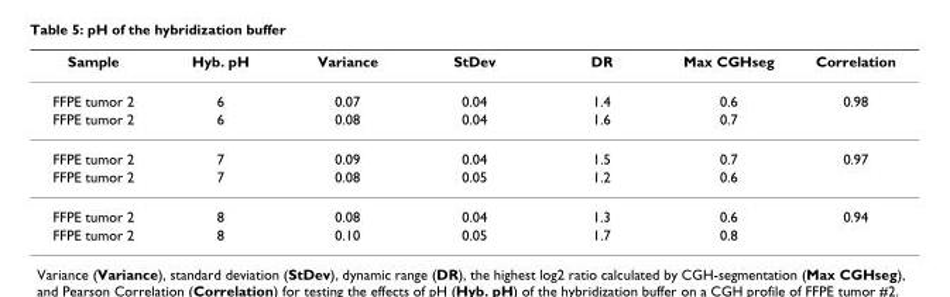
<table><thead><tr><td>Sample</td><td>Hyb. pH</td><td>Variance</td><td>StDev</td><td>DR</td><td>Max CGHseg</td><td>Correlation</td></tr></thead><tbody><tr><td>FFPE tumor 2</td><td>6</td><td>0.07</td><td>0.04</td><td>1.4</td><td>0.6</td><td>0.98</td></tr><tr><td>FFPE tumor 2</td><td>6</td><td>0.08</td><td>0.04</td><td>1.6</td><td>0.7</td><td></td></tr><tr><td>FFPE tumor 2</td><td>7</td><td>0.09</td><td>0.04</td><td>1.5</td><td>0.7</td><td>0.97</td></tr><tr><td>FFPE tumor 2</td><td>7</td><td>0.08</td><td>0.05</td><td>1.2</td><td>0.6</td><td></td></tr><tr><td>FFPE tumor 2</td><td>8</td><td>0.08</td><td>0.04</td><td>1.3</td><td>0.6</td><td>0.94</td></tr><tr><td>FFPE tumor 2</td><td>8</td><td>0.10</td><td>0.05</td><td>1.7</td><td>0.8</td><td></td></tr></tbody></table>